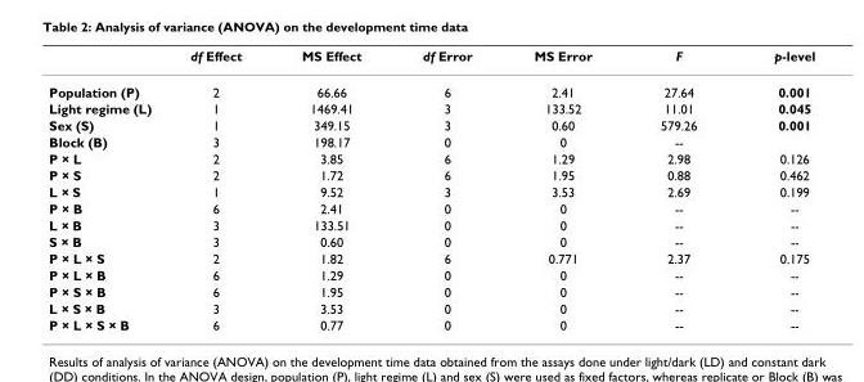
<table><thead><tr><td></td><td>df Effect</td><td>MS Effect</td><td>df Error</td><td>MS Error</td><td>F</td><td>p-level</td></tr></thead><tbody><tr><td>Population (P)</td><td>2</td><td>66.66</td><td>6</td><td>2.41</td><td>27.64</td><td>0.001</td></tr><tr><td>Light regime (L)</td><td>1</td><td>1469.41</td><td>3</td><td>133.52</td><td>11.01</td><td>0.045</td></tr><tr><td>Sex (S)</td><td>1</td><td>349.15</td><td>3</td><td>0.60</td><td>579.26</td><td>0.001</td></tr><tr><td>Block (B)</td><td>3</td><td>198.17</td><td>0</td><td>0</td><td>--</td><td></td></tr><tr><td>P × L</td><td>2</td><td>3.85</td><td>6</td><td>1.29</td><td>2.98</td><td>0.126</td></tr><tr><td>P × S</td><td>2</td><td>1.72</td><td>6</td><td>1.95</td><td>0.88</td><td>0.462</td></tr><tr><td>L × S</td><td>1</td><td>9.52</td><td>3</td><td>3.53</td><td>2.69</td><td>0.199</td></tr><tr><td>P × B</td><td>6</td><td>2.41</td><td>0</td><td>0</td><td>--</td><td>--</td></tr><tr><td>L × B</td><td>3</td><td>133.51</td><td>0</td><td>0</td><td>--</td><td>--</td></tr><tr><td>S × B</td><td>3</td><td>0.60</td><td>0</td><td>0</td><td>--</td><td>--</td></tr><tr><td>P × L × S</td><td>2</td><td>1.82</td><td>6</td><td>0.771</td><td>2.37</td><td>0.175</td></tr><tr><td>P × L × B</td><td>6</td><td>1.29</td><td>0</td><td>0</td><td>--</td><td>--</td></tr><tr><td>P × S × B</td><td>6</td><td>1.95</td><td>0</td><td>0</td><td>--</td><td>--</td></tr><tr><td>L × S × B</td><td>3</td><td>3.53</td><td>0</td><td>0</td><td>--</td><td>--</td></tr><tr><td>P × L × S × B</td><td>6</td><td>0.77</td><td>0</td><td>0</td><td>--</td><td>--</td></tr></tbody></table>